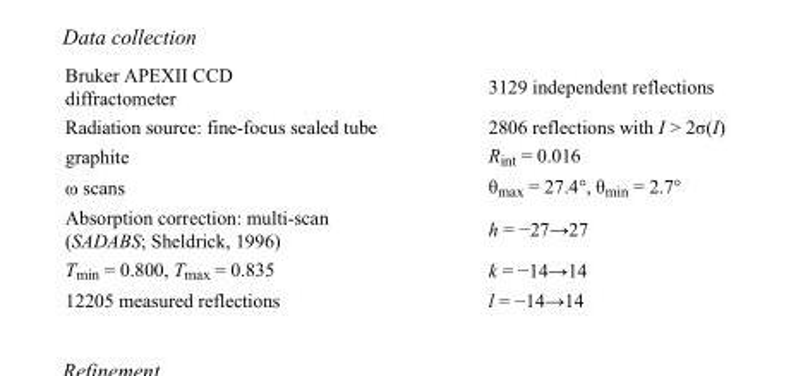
<table><tbody><tr><td>Bruker APEXII CCD diffractometer</td><td>3129 independent reflections</td></tr><tr><td>Radiation source: fine-focus sealed tube</td><td>2806 reflections with I &gt; 2σ(I)</td></tr><tr><td>graphite</td><td>R<sub>int</sub> = 0.016</td></tr><tr><td>ω scans</td><td>θ<sub>max</sub> = 27.4°, θ<sub>min</sub> = 2.7°</td></tr><tr><td>Absorption correction: multi-scan (SADABS; Sheldrick, 1996)</td><td>h = −27→27</td></tr><tr><td>T<sub>min</sub> = 0.800, T<sub>max</sub> = 0.835</td><td>k = −14→14</td></tr><tr><td>12205 measured reflections</td><td>l = −14→14</td></tr></tbody></table>